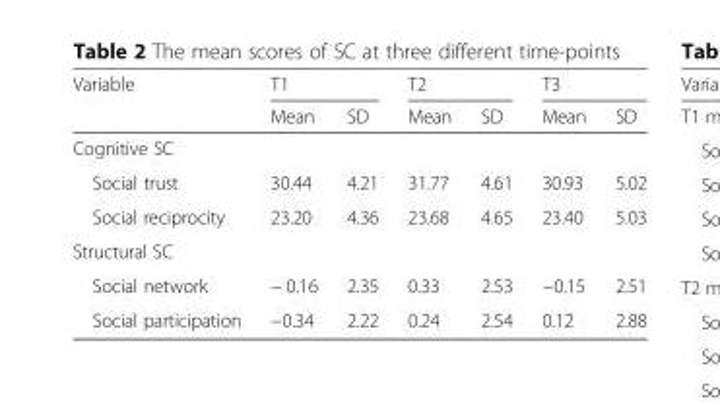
<table><thead><tr><td rowspan="2">Variable</td><td colspan="2">T1</td><td colspan="2">T2</td><td colspan="2">T3</td></tr><tr><td>Mean</td><td>SD</td><td>Mean</td><td>SD</td><td>Mean</td><td>SD</td></tr></thead><tbody><tr><td colspan="7">Cognitive SC</td></tr><tr><td>Social trust</td><td>30.44</td><td>4.21</td><td>31.77</td><td>4.61</td><td>30.93</td><td>5.02</td></tr><tr><td>Social reciprocity</td><td>23.20</td><td>4.36</td><td>23.68</td><td>4.65</td><td>23.40</td><td>5.03</td></tr><tr><td colspan="7">Structural SC</td></tr><tr><td>Social network</td><td>− 0.16</td><td>2.35</td><td>0.33</td><td>2.53</td><td>−0.15</td><td>2.51</td></tr><tr><td>Social participation</td><td>−0.34</td><td>2.22</td><td>0.24</td><td>2.54</td><td>0.12</td><td>2.88</td></tr></tbody></table>